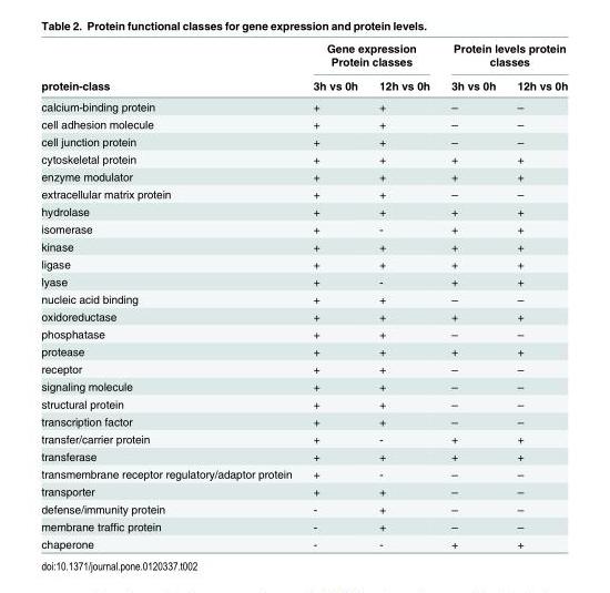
<table><thead><tr><td rowspan="2">protein-class</td><td colspan="2">Gene expression Protein classes</td><td colspan="2">Protein levels protein classes</td></tr><tr><td>3h vs 0h</td><td>12h vs 0h</td><td>3h vs 0h</td><td>12h vs 0h</td></tr></thead><tbody><tr><td>calcium-binding protein</td><td>+</td><td>+</td><td>‒</td><td>‒</td></tr><tr><td>cell adhesion molecule</td><td>+</td><td>+</td><td>‒</td><td>‒</td></tr><tr><td>cell junction protein</td><td>+</td><td>+</td><td>‒</td><td>‒</td></tr><tr><td>cytoskeletal protein</td><td>+</td><td>+</td><td>+</td><td>+</td></tr><tr><td>enzyme modulator</td><td>+</td><td>+</td><td>+</td><td>+</td></tr><tr><td>extracellular matrix protein</td><td>+</td><td>+</td><td>‒</td><td>‒</td></tr><tr><td>hydrolase</td><td>+</td><td>+</td><td>+</td><td>+</td></tr><tr><td>isomerase</td><td>+</td><td>-</td><td>+</td><td>+</td></tr><tr><td>kinase</td><td>+</td><td>+</td><td>+</td><td>+</td></tr><tr><td>ligase</td><td>+</td><td>+</td><td>+</td><td>+</td></tr><tr><td>lyase</td><td>+</td><td>-</td><td>+</td><td>+</td></tr><tr><td>nucleic acid binding</td><td>+</td><td>+</td><td>‒</td><td>‒</td></tr><tr><td>oxidoreductase</td><td>+</td><td>+</td><td>+</td><td>+</td></tr><tr><td>phosphatase</td><td>+</td><td>+</td><td>‒</td><td>‒</td></tr><tr><td>protease</td><td>+</td><td>+</td><td>+</td><td>+</td></tr><tr><td>receptor</td><td>+</td><td>+</td><td>‒</td><td>‒</td></tr><tr><td>signaling molecule</td><td>+</td><td>+</td><td>‒</td><td>‒</td></tr><tr><td>structural protein</td><td>+</td><td>+</td><td>‒</td><td>‒</td></tr><tr><td>transcription factor</td><td>+</td><td>+</td><td>‒</td><td>‒</td></tr><tr><td>transfer/carrier protein</td><td>+</td><td>-</td><td>+</td><td>+</td></tr><tr><td>transferase</td><td>+</td><td>+</td><td>+</td><td>+</td></tr><tr><td>transmembrane receptor regulatory/adaptor protein</td><td>+</td><td>-</td><td>‒</td><td>‒</td></tr><tr><td>transporter</td><td>+</td><td>+</td><td>‒</td><td>‒</td></tr><tr><td>defense/immunity protein</td><td>-</td><td>+</td><td>‒</td><td>‒</td></tr><tr><td>membrane traffic protein</td><td>-</td><td>+</td><td>‒</td><td>‒</td></tr><tr><td>chaperone</td><td>-</td><td>-</td><td>+</td><td>+</td></tr></tbody></table>